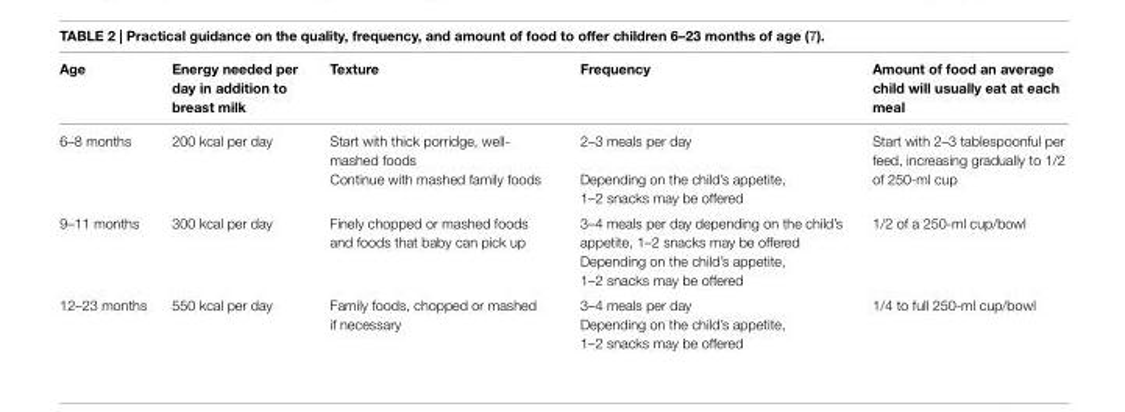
<table><thead><tr><td>Age</td><td>energy needed per day in addition to breast milk</td><td>Texture</td><td>Frequency</td><td>Amount of food an average child will usually eat at each meal</td></tr></thead><tbody><tr><td rowspan="2">6–8 months</td><td rowspan="2">200 kcal per day</td><td>Start with thick porridge, well- mashed foods</td><td>2–3 meals per day</td><td rowspan="2">Start with 2–3 tablespoonful per feed, increasing gradually to 1/2 of 250-ml cup</td></tr><tr><td>Continue with mashed family foods</td><td>Depending on the child’s appetite, 1–2 snacks may be offered</td></tr><tr><td rowspan="2">9–11 months</td><td rowspan="2">300 kcal per day</td><td rowspan="2">Finely chopped or mashed foods and foods that baby can pick up</td><td>3–4 meals per day depending on the child’s appetite, 1–2 snacks may be offered</td><td>1/2 of a 250-ml cup/bowl</td></tr><tr><td>Depending on the child’s appetite, 1–2 snacks may be offered</td><td></td></tr><tr><td rowspan="2">12–23 months</td><td rowspan="2">550 kcal per day</td><td rowspan="2">Family foods, chopped or mashed if necessary</td><td>3–4 meals per day</td><td>1/4 to full 250-ml cup/bowl</td></tr><tr><td>Depending on the child’s appetite, 1–2 snacks may be offered</td><td></td></tr></tbody></table>